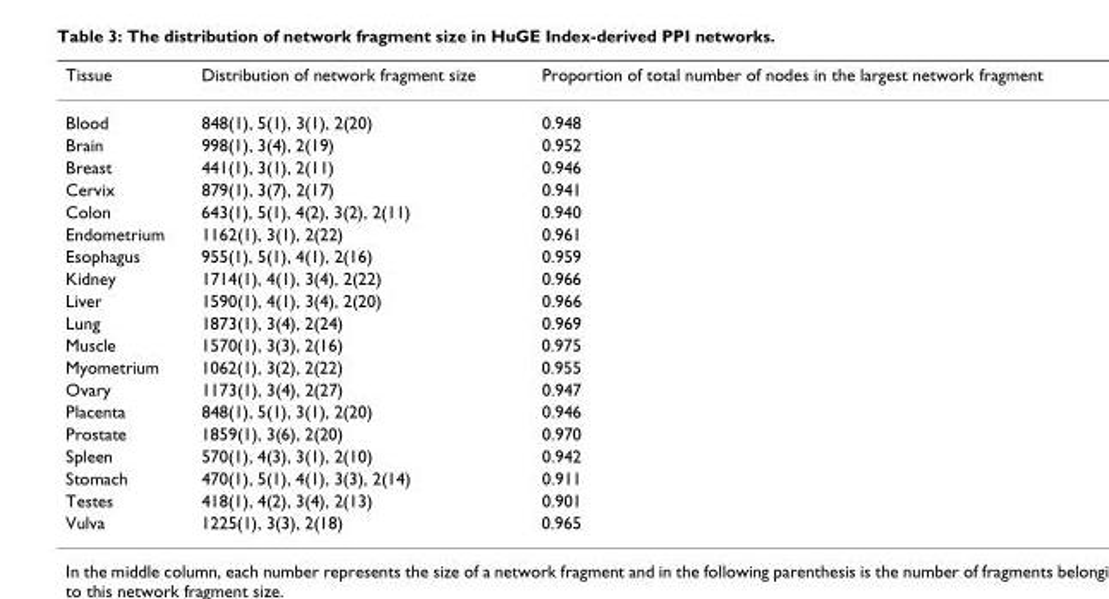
<table><thead><tr><td>Tissue</td><td>Distribution of network fragment size</td><td>Proportion of total number of nodes in the largest network fragment</td></tr></thead><tbody><tr><td>Blood</td><td>848(1), 5(1), 3(1), 2(20)</td><td>0.948</td></tr><tr><td>Brain</td><td>998(1), 3(4), 2(19)</td><td>0.952</td></tr><tr><td>Breast</td><td>441(1), 3(1), 2(11)</td><td>0.946</td></tr><tr><td>Cervix</td><td>879(1), 3(7), 2(17)</td><td>0.941</td></tr><tr><td>Colon</td><td>643(1), 5(1), 4(2), 3(2), 2(11)</td><td>0.940</td></tr><tr><td>Endometrium</td><td>1162(1), 3(1), 2(22)</td><td>0.961</td></tr><tr><td>Esophagus</td><td>955(1), 5(1), 4(1), 2(16)</td><td>0.959</td></tr><tr><td>Kidney</td><td>1714(1), 4(1), 3(4), 2(22)</td><td>0.966</td></tr><tr><td>Liver</td><td>1590(1), 4(1), 3(4), 2(20)</td><td>0.966</td></tr><tr><td>Lung</td><td>1873(1), 3(4), 2(24)</td><td>0.969</td></tr><tr><td>Muscle</td><td>1570(1), 3(3), 2(16)</td><td>0.975</td></tr><tr><td>Myometrium</td><td>1062(1), 3(2), 2(22)</td><td>0.955</td></tr><tr><td>Ovary</td><td>1173(1), 3(4), 2(27)</td><td>0.947</td></tr><tr><td>Placenta</td><td>848(1), 5(1), 3(1), 2(20)</td><td>0.946</td></tr><tr><td>Prostate</td><td>1859(1), 3(6), 2(20)</td><td>0.970</td></tr><tr><td>Spleen</td><td>570(1), 4(3), 3(1), 2(10)</td><td>0.942</td></tr><tr><td>Stomach</td><td>470(1), 5(1), 4(1), 3(3), 2(14)</td><td>0.911</td></tr><tr><td>Testes</td><td>418(1), 4(2), 3(4), 2(13)</td><td>0.901</td></tr><tr><td>Vulva</td><td>1225(1), 3(3), 2(18)</td><td>0.965</td></tr></tbody></table>